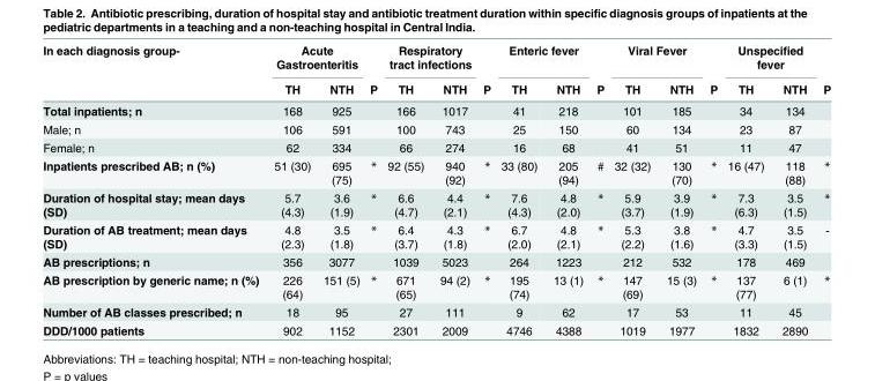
<table><thead><tr><td rowspan="2">In each diagnosis group-</td><td colspan="2">Acute Gastroenteritis</td><td rowspan="2">P</td><td colspan="2">Respiratory tract infections</td><td rowspan="2">P</td><td colspan="2">Enteric fever</td><td rowspan="2">P</td><td colspan="2">Viral Fever</td><td rowspan="2">P</td><td colspan="2">Unspecified fever</td><td rowspan="2">P</td></tr><tr><td>TH</td><td>NTH</td><td>TH</td><td>NTH</td><td>TH</td><td>NTH</td><td>TH</td><td>NTH</td><td>TH</td><td>NTH</td></tr></thead><tbody><tr><td>Total inpatients; n</td><td>168</td><td>925</td><td></td><td>166</td><td>1017</td><td></td><td>41</td><td>218</td><td></td><td>101</td><td>185</td><td></td><td>34</td><td>134</td><td></td></tr><tr><td>Male; n</td><td>106</td><td>591</td><td></td><td>100</td><td>743</td><td></td><td>25</td><td>150</td><td></td><td>60</td><td>134</td><td></td><td>23</td><td>87</td><td></td></tr><tr><td>Female; n</td><td>62</td><td>334</td><td></td><td>66</td><td>274</td><td></td><td>16</td><td>68</td><td></td><td>41</td><td>51</td><td></td><td>11</td><td>47</td><td></td></tr><tr><td>Inpatients prescribed AB; n (%)</td><td>51 (30)</td><td>695 (75)</td><td>*</td><td>92 (55)</td><td>940 (92)</td><td>*</td><td>33 (80)</td><td>205 (94)</td><td>#</td><td>32 (32)</td><td>130 (70)</td><td>*</td><td>16 (47)</td><td>118 (88)</td><td>*</td></tr><tr><td>Duration of hospital stay; mean days (SD)</td><td>5.7 (4.3)</td><td>3.6 (1.9)</td><td>*</td><td>6.6 (4.7)</td><td>4.4 (2.1)</td><td>*</td><td>7.6 (4.3)</td><td>4.8 (2.0)</td><td>*</td><td>5.9 (3.7)</td><td>3.9 (1.9)</td><td>*</td><td>7.3 (6.3)</td><td>3.5 (1.5)</td><td>*</td></tr><tr><td>Duration of AB treatment; mean days (SD)</td><td>4.8 (2.3)</td><td>3.5 (1.8)</td><td>*</td><td>6.4 (3.7)</td><td>4.3 (1.8)</td><td>*</td><td>6.7 (2.0)</td><td>4.8 (2.1)</td><td>*</td><td>5.3 (2.2)</td><td>3.8 (1.6)</td><td>*</td><td>4.7 (3.3)</td><td>3.5 (1.5)</td><td>-</td></tr><tr><td>AB prescriptions; n</td><td>356</td><td>3077</td><td></td><td>1039</td><td>5023</td><td></td><td>264</td><td>1223</td><td></td><td>212</td><td>532</td><td></td><td>178</td><td>469</td><td></td></tr><tr><td>AB prescription by generic name; n (%)</td><td>226 (64)</td><td>151 (5)</td><td>*</td><td>671 (65)</td><td>94 (2)</td><td>*</td><td>195 (74)</td><td>13 (1)</td><td>*</td><td>147 (69)</td><td>15 (3)</td><td>*</td><td>137 (77)</td><td>6 (1)</td><td>*</td></tr><tr><td>Number of AB classes prescribed; n</td><td>18</td><td>95</td><td></td><td>27</td><td>111</td><td></td><td>9</td><td>62</td><td></td><td>17</td><td>53</td><td></td><td>11</td><td>45</td><td></td></tr><tr><td>DDD/1000 patients</td><td>902</td><td>1152</td><td></td><td>2301</td><td>2009</td><td></td><td>4746</td><td>4388</td><td></td><td>1019</td><td>1977</td><td></td><td>1832</td><td>2890</td><td></td></tr></tbody></table>